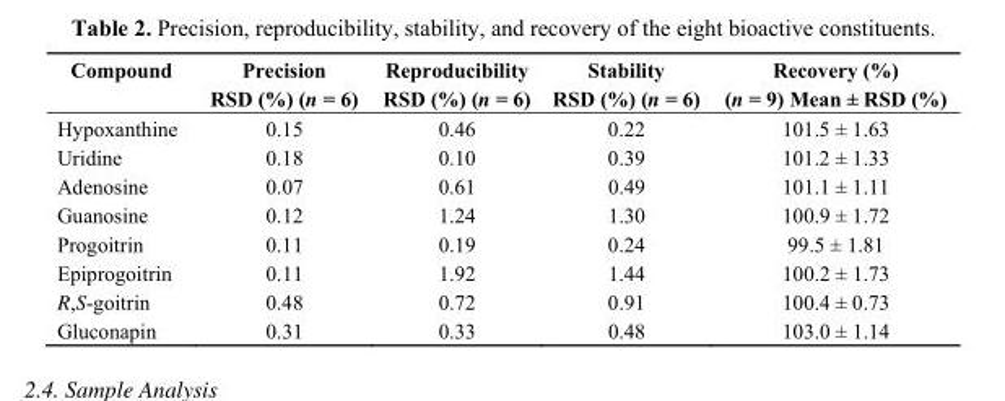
<table><thead><tr><td>Compound</td><td>Precision RSD (%) (n = 6)</td><td>Reproducibility RSD (%) (n = 6)</td><td>Stability RSD (%) (n = 6)</td><td>Recovery (%) (n = 9) Mean ± RSD (%)</td></tr></thead><tbody><tr><td>Hypoxanthine</td><td>0.15</td><td>0.46</td><td>0.22</td><td>101.5 ± 1.63</td></tr><tr><td>Uridine</td><td>0.18</td><td>0.10</td><td>0.39</td><td>101.2 ± 1.33</td></tr><tr><td>Adenosine</td><td>0.07</td><td>0.61</td><td>0.49</td><td>101.1 ± 1.11</td></tr><tr><td>Guanosine</td><td>0.12</td><td>1.24</td><td>1.30</td><td>100.9 ± 1.72</td></tr><tr><td>Progoitrin</td><td>0.11</td><td>0.19</td><td>0.24</td><td>99.5 ± 1.81</td></tr><tr><td>Epiprogoitrin</td><td>0.11</td><td>1.92</td><td>1.44</td><td>100.2 ± 1.73</td></tr><tr><td>R,S-goitrin</td><td>0.48</td><td>0.72</td><td>0.91</td><td>100.4 ± 0.73</td></tr><tr><td>Gluconapin</td><td>0.31</td><td>0.33</td><td>0.48</td><td>103.0 ± 1.14</td></tr></tbody></table>